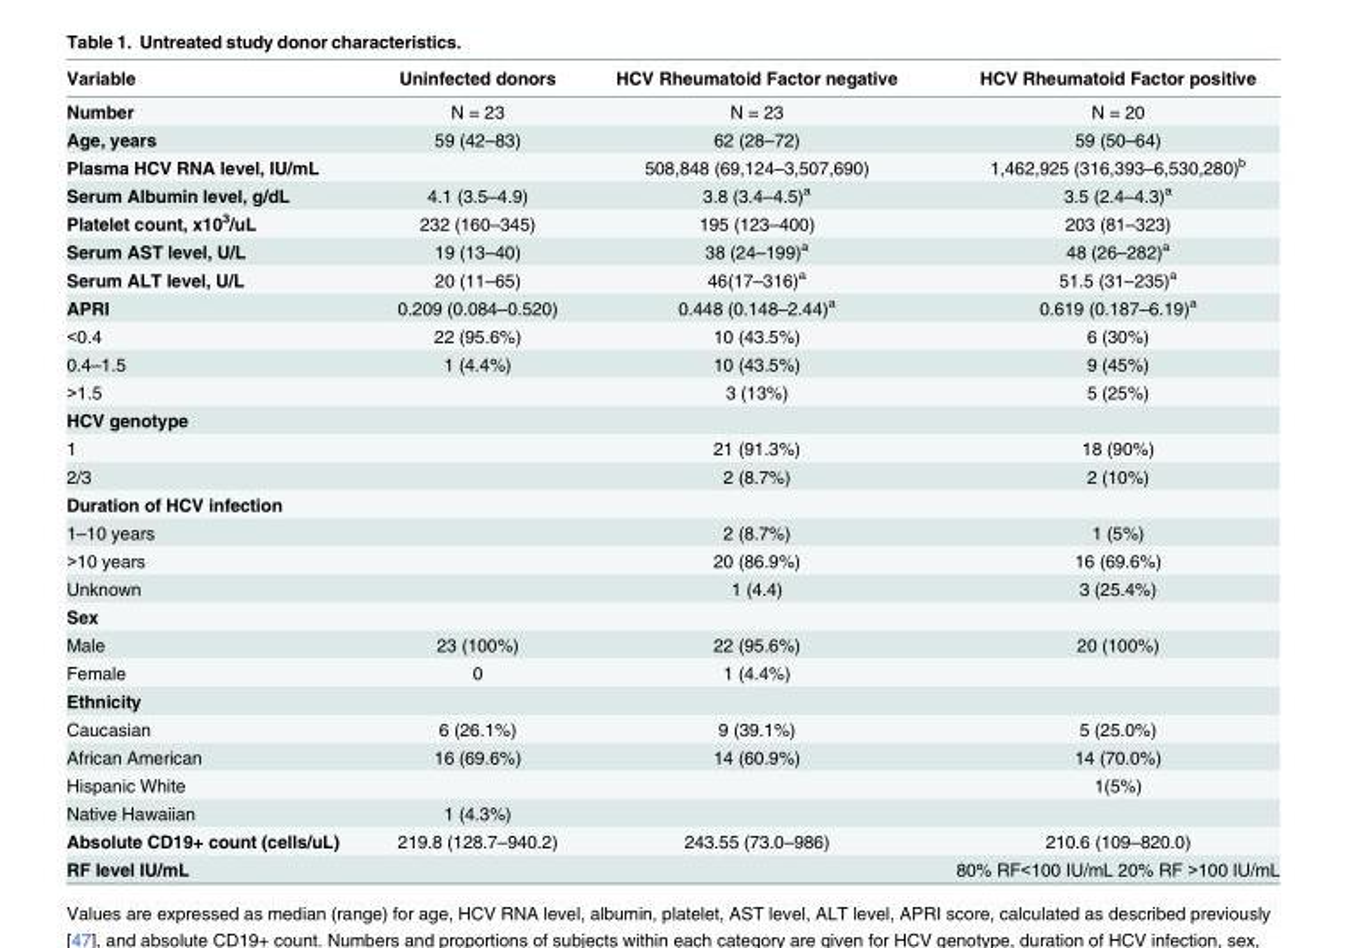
<table><thead><tr><td>Variable</td><td>Uninfected donors</td><td>HCV Rheumatoid Factor negative</td><td>HCV Rheumatoid Factor positive</td></tr></thead><tbody><tr><td>Number</td><td>N = 23</td><td>N = 23</td><td>N = 20</td></tr><tr><td>Age, years</td><td>59 (42–83)</td><td>62 (28–72)</td><td>59 (50–64)</td></tr><tr><td>Plasma HCV RNA level, IU/mL</td><td></td><td>508,848 (69,124–3,507,690)</td><td>1,462,925 (316,393–6,530,280)<sup>b</sup></td></tr><tr><td>Serum Albumin level, g/dL</td><td>4.1 (3.5–4.9)</td><td>3.8 (3.4–4.5)<sup>a</sup></td><td>3.5 (2.4–4.3)<sup>a</sup></td></tr><tr><td>Platelet count, x10<sup>3</sup>/uL</td><td>232 (160–345)</td><td>195 (123–400)</td><td>203 (81–323)</td></tr><tr><td>Serum AST level, U/L</td><td>19 (13–40)</td><td>38 (24–199)<sup>a</sup></td><td>48 (26–282)<sup>a</sup></td></tr><tr><td>Serum ALT level, U/L</td><td>20 (11–65)</td><td>46(17–316)<sup>a</sup></td><td>51.5 (31–235)<sup>a</sup></td></tr><tr><td>APRI</td><td>0.209 (0.084–0.520)</td><td>0.448 (0.148–2.44)<sup>a</sup></td><td>0.619 (0.187–6.19)<sup>a</sup></td></tr><tr><td>&lt;0.4</td><td>22 (95.6%)</td><td>10 (43.5%)</td><td>6 (30%)</td></tr><tr><td>0.4–1.5</td><td>1 (4.4%)</td><td>10 (43.5%)</td><td>9 (45%)</td></tr><tr><td>&gt;1.5</td><td></td><td>3 (13%)</td><td>5 (25%)</td></tr><tr><td colspan="4">HCV genotype</td></tr><tr><td>1</td><td></td><td>21 (91.3%)</td><td>18 (90%)</td></tr><tr><td>2/3</td><td></td><td>2 (8.7%)</td><td>2 (10%)</td></tr><tr><td colspan="4">Duration of HCV infection</td></tr><tr><td>1–10 years</td><td></td><td>2 (8.7%)</td><td>1 (5%)</td></tr><tr><td>&gt;10 years</td><td></td><td>20 (86.9%)</td><td>16 (69.6%)</td></tr><tr><td>Unknown</td><td></td><td>1 (4.4)</td><td>3 (25.4%)</td></tr><tr><td colspan="4">Sex</td></tr><tr><td>Male</td><td>23 (100%)</td><td>22 (95.6%)</td><td>20 (100%)</td></tr><tr><td>Female</td><td>0</td><td>1 (4.4%)</td><td></td></tr><tr><td colspan="4">Ethnicity</td></tr><tr><td>Caucasian</td><td>6 (26.1%)</td><td>9 (39.1%)</td><td>5 (25.0%)</td></tr><tr><td>African American</td><td>16 (69.6%)</td><td>14 (60.9%)</td><td>14 (70.0%)</td></tr><tr><td>Hispanic White</td><td></td><td></td><td>1(5%)</td></tr><tr><td>Native Hawaiian</td><td>1 (4.3%)</td><td></td><td></td></tr><tr><td>Absolute CD19+ count (cells/uL)</td><td>219.8 (128.7–940.2)</td><td>243.55 (73.0–986)</td><td>210.6 (109–820.0)</td></tr><tr><td>RF level IU/mL</td><td></td><td></td><td>80% RF&lt;100 IU/mL 20% RF &gt;100 IU/mL</td></tr></tbody></table>